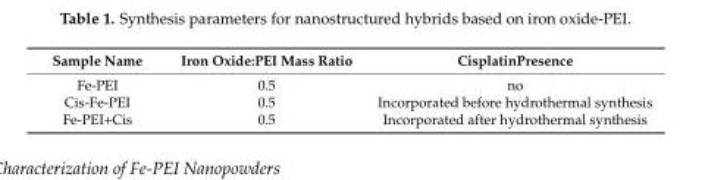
<table><thead><tr><td>Sample Name</td><td>Iron Oxide:PEI Mass Ratio</td><td>CisplatinPresence</td></tr></thead><tbody><tr><td>Fe-PEI</td><td>0.5</td><td>no</td></tr><tr><td>Cis-Fe-PEI</td><td>0.5</td><td>Incorporated before hydrothermal synthesis</td></tr><tr><td>Fe-PEI+Cis</td><td>0.5</td><td>Incorporated after hydrothermal synthesis</td></tr></tbody></table>